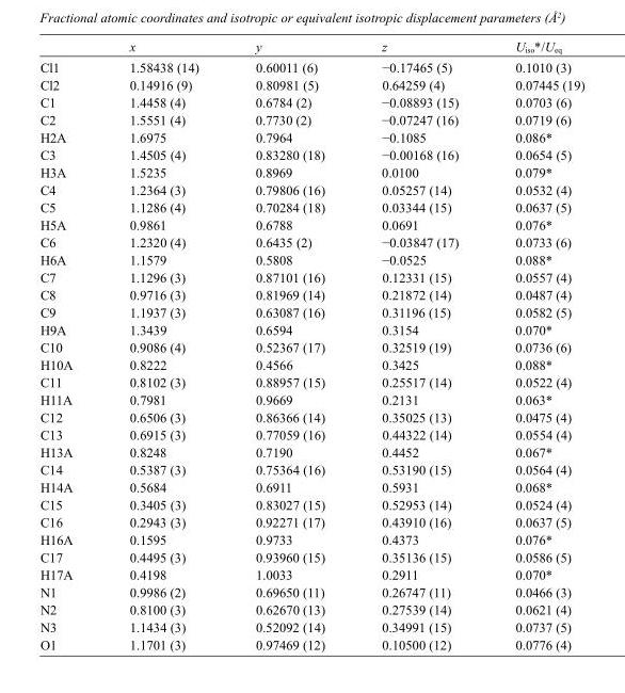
<table><thead><tr><td></td><td>x</td><td>y</td><td>z</td><td>U<sub>iso</sub>*/U<sub>eq</sub></td></tr></thead><tbody><tr><td>Cl1</td><td>1.58438 (14)</td><td>0.60011 (6)</td><td>−0.17465 (5)</td><td>0.1010 (3)</td></tr><tr><td>Cl2</td><td>0.14916 (9)</td><td>0.80981 (5)</td><td>0.64259 (4)</td><td>0.07445 (19)</td></tr><tr><td>C1</td><td>1.4458 (4)</td><td>0.6784 (2)</td><td>−0.08893 (15)</td><td>0.0703 (6)</td></tr><tr><td>C2</td><td>1.5551 (4)</td><td>0.7730 (2)</td><td>−0.07247 (16)</td><td>0.0719 (6)</td></tr><tr><td>H2A</td><td>1.6975</td><td>0.7964</td><td>−0.1085</td><td>0.086*</td></tr><tr><td>C3</td><td>1.4505 (4)</td><td>0.83280 (18)</td><td>−0.00168 (16)</td><td>0.0654 (5)</td></tr><tr><td>H3A</td><td>1.5235</td><td>0.8969</td><td>0.0100</td><td>0.079*</td></tr><tr><td>C4</td><td>1.2364 (3)</td><td>0.79806 (16)</td><td>0.05257 (14)</td><td>0.0532 (4)</td></tr><tr><td>C5</td><td>1.1286 (4)</td><td>0.70284 (18)</td><td>0.03344 (15)</td><td>0.0637 (5)</td></tr><tr><td>H5A</td><td>0.9861</td><td>0.6788</td><td>0.0691</td><td>0.076*</td></tr><tr><td>C6</td><td>1.2320 (4)</td><td>0.6435 (2)</td><td>−0.03847 (17)</td><td>0.0733 (6)</td></tr><tr><td>H6A</td><td>1.1579</td><td>0.5808</td><td>−0.0525</td><td>0.088*</td></tr><tr><td>C7</td><td>1.1296 (3)</td><td>0.87101 (16)</td><td>0.12331 (15)</td><td>0.0557 (4)</td></tr><tr><td>C8</td><td>0.9716 (3)</td><td>0.81969 (14)</td><td>0.21872 (14)</td><td>0.0487 (4)</td></tr><tr><td>C9</td><td>1.1937 (3)</td><td>0.63087 (16)</td><td>0.31196 (15)</td><td>0.0582 (5)</td></tr><tr><td>H9A</td><td>1.3439</td><td>0.6594</td><td>0.3154</td><td>0.070*</td></tr><tr><td>C10</td><td>0.9086 (4)</td><td>0.52367 (17)</td><td>0.32519 (19)</td><td>0.0736 (6)</td></tr><tr><td>H10A</td><td>0.8222</td><td>0.4566</td><td>0.3425</td><td>0.088*</td></tr><tr><td>C11</td><td>0.8102 (3)</td><td>0.88957 (15)</td><td>0.25517 (14)</td><td>0.0522 (4)</td></tr><tr><td>H11A</td><td>0.7981</td><td>0.9669</td><td>0.2131</td><td>0.063*</td></tr><tr><td>C12</td><td>0.6506 (3)</td><td>0.86366 (14)</td><td>0.35025 (13)</td><td>0.0475 (4)</td></tr><tr><td>C13</td><td>0.6915 (3)</td><td>0.77059 (16)</td><td>0.44322 (14)</td><td>0.0554 (4)</td></tr><tr><td>H13A</td><td>0.8248</td><td>0.7190</td><td>0.4452</td><td>0.067*</td></tr><tr><td>C14</td><td>0.5387 (3)</td><td>0.75364 (16)</td><td>0.53190 (15)</td><td>0.0564 (4)</td></tr><tr><td>H14A</td><td>0.5684</td><td>0.6911</td><td>0.5931</td><td>0.068*</td></tr><tr><td>C15</td><td>0.3405 (3)</td><td>0.83027 (15)</td><td>0.52953 (14)</td><td>0.0524 (4)</td></tr><tr><td>C16</td><td>0.2943 (3)</td><td>0.92271 (17)</td><td>0.43910 (16)</td><td>0.0637 (5)</td></tr><tr><td>H16A</td><td>0.1595</td><td>0.9733</td><td>0.4373</td><td>0.076*</td></tr><tr><td>C17</td><td>0.4495 (3)</td><td>0.93960 (15)</td><td>0.35136 (15)</td><td>0.0586 (5)</td></tr><tr><td>H17A</td><td>0.4198</td><td>1.0033</td><td>0.2911</td><td>0.070*</td></tr><tr><td>N1</td><td>0.9986 (2)</td><td>0.69650 (11)</td><td>0.26747 (11)</td><td>0.0466 (3)</td></tr><tr><td>N2</td><td>0.8100 (3)</td><td>0.62670 (13)</td><td>0.27539 (14)</td><td>0.0621 (4)</td></tr><tr><td>N3</td><td>1.1434 (3)</td><td>0.52092 (14)</td><td>0.34991 (15)</td><td>0.0737 (5)</td></tr><tr><td>O1</td><td>1.1701 (3)</td><td>0.97469 (12)</td><td>0.10500 (12)</td><td>0.0776 (4)</td></tr></tbody></table>